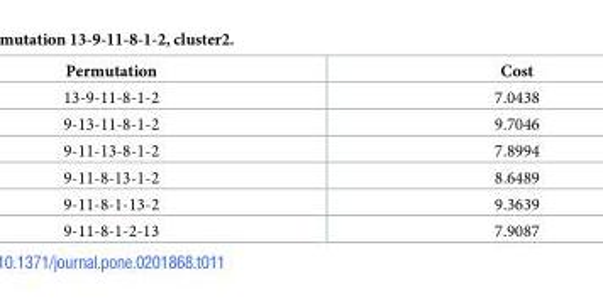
<table><thead><tr><td>Permutation</td><td>Cost</td></tr></thead><tbody><tr><td>13-9-11-8-1-2</td><td>7.0438</td></tr><tr><td>9-13-11-8-1-2</td><td>9.7046</td></tr><tr><td>9-11-13-8-1-2</td><td>7.8994</td></tr><tr><td>9-11-8-13-1-2</td><td>8.6489</td></tr><tr><td>9-11-8-1-13-2</td><td>9.3639</td></tr><tr><td>9-11-8-1-2-13</td><td>7.9087</td></tr></tbody></table>